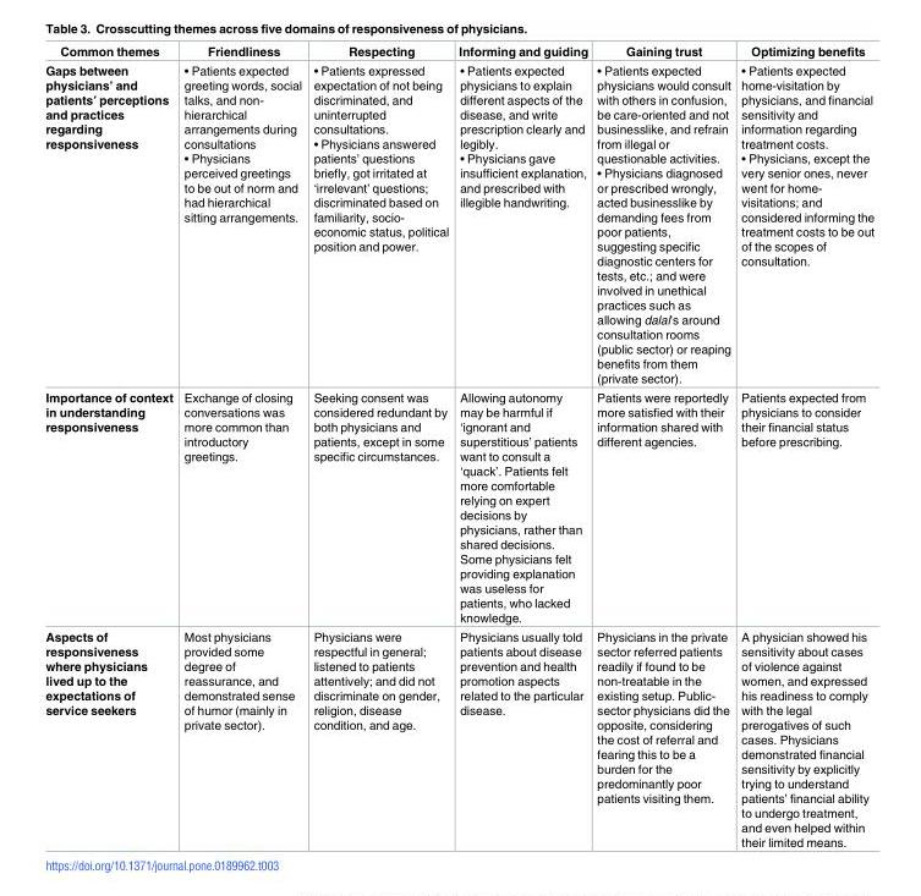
<table><thead><tr><td>Common themes</td><td>Friendliness</td><td>Respecting</td><td>Informing and guiding</td><td>Gaining trust</td><td>Optimizing benefits</td></tr></thead><tbody><tr><td>Gaps between physicians’ and patients’ perceptions and practices regarding responsiveness</td><td>• Patients expected greeting words, social talks, and non- hierarchical arrangements during consultations • Physicians perceived greetings to be out of norm and had hierarchical sitting arrangements.</td><td>• Patients expressed expectation of not being discriminated, and uninterrupted consultations. • Physicians answered patients’ questions briefly, got irritated at ‘irrelevant’ questions; discriminated based on familiarity, socio- economic status, political position and power.</td><td>• Patients expected physicians to explain different aspects of the disease, and write prescription clearly and legibly. • Physicians gave insufficient explanation, and prescribed with illegible handwriting.</td><td>• Patients expected physicians would consult with others in confusion, be care-oriented and not businesslike, and refrain from illegal or questionable activities. • Physicians diagnosed or prescribed wrongly, acted businesslike by demanding fees from poor patients, suggesting specific diagnostic centers for tests, etc.; and were involved in unethical practices such as allowing dalal’s around consultation rooms (public sector) or reaping benefits from them (private sector).</td><td>• Patients expected home-visitation by physicians, and financial sensitivity and information regarding treatment costs. • Physicians, except the very senior ones, never went for home- visitations; and considered informing the treatment costs to be out of the scopes of consultation.</td></tr><tr><td>Importance of context in understanding responsiveness</td><td>Exchange of closing conversations was more common than introductory greetings.</td><td>Seeking consent was considered redundant by both physicians and patients, except in some specific circumstances.</td><td>Allowing autonomy may be harmful if ‘ignorant and superstitious’ patients want to consult a ‘quack’. Patients felt more comfortable relying on expert decisions by physicians, rather than shared decisions. Some physicians felt providing explanation was useless for patients, who lacked knowledge.</td><td>Patients were reportedly more satisfied with their information shared with different agencies.</td><td>Patients expected from physicians to consider their financial status before prescribing.</td></tr><tr><td>Aspects of responsiveness where physicians lived up to the expectations of service seekers</td><td>Most physicians provided some degree of reassurance, and demonstrated sense of humor (mainly in private sector).</td><td>Physicians were respectful in general; listened to patients attentively; and did not discriminate on gender, religion, disease condition, and age.</td><td>Physicians usually told patients about disease prevention and health promotion aspects related to the particular disease.</td><td>Physicians in the private sector referred patients readily if found to be non-treatable in the existing setup. Public- sector physicians did the opposite, considering the cost of referral and fearing this to be a burden for the predominantly poor patients visiting them.</td><td>A physician showed his sensitivity about cases of violence against women, and expressed his readiness to comply with the legal prerogatives of such cases. Physicians demonstrated financial sensitivity by explicitly trying to understand patients’ financial ability to undergo treatment, and even helped within their limited means.</td></tr></tbody></table>